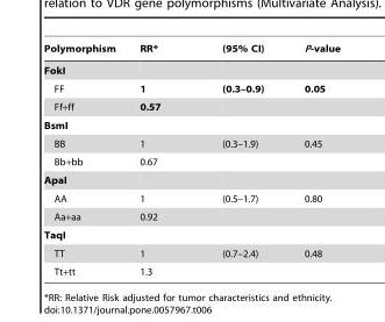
<table><thead><tr><td>Polymorphism</td><td>RR*</td><td>(95% CI)</td><td>P-value</td></tr></thead><tbody><tr><td colspan="4">FokI</td></tr><tr><td>FF</td><td>1</td><td>(0.3–0.9)</td><td>0.05</td></tr><tr><td>Ff+ff</td><td>0.57</td><td></td><td></td></tr><tr><td colspan="4">BsmI</td></tr><tr><td>BB</td><td>1</td><td>(0.3–1.9)</td><td>0.45</td></tr><tr><td>Bb+bb</td><td>0.67</td><td></td><td></td></tr><tr><td colspan="4">ApaI</td></tr><tr><td>AA</td><td>1</td><td>(0.5–1.7)</td><td>0.80</td></tr><tr><td>Aa+aa</td><td>0.92</td><td></td><td></td></tr><tr><td colspan="4">TaqI</td></tr><tr><td>TT</td><td>1</td><td>(0.7–2.4)</td><td>0.48</td></tr><tr><td>Tt+tt</td><td>1.3</td><td></td><td></td></tr></tbody></table>